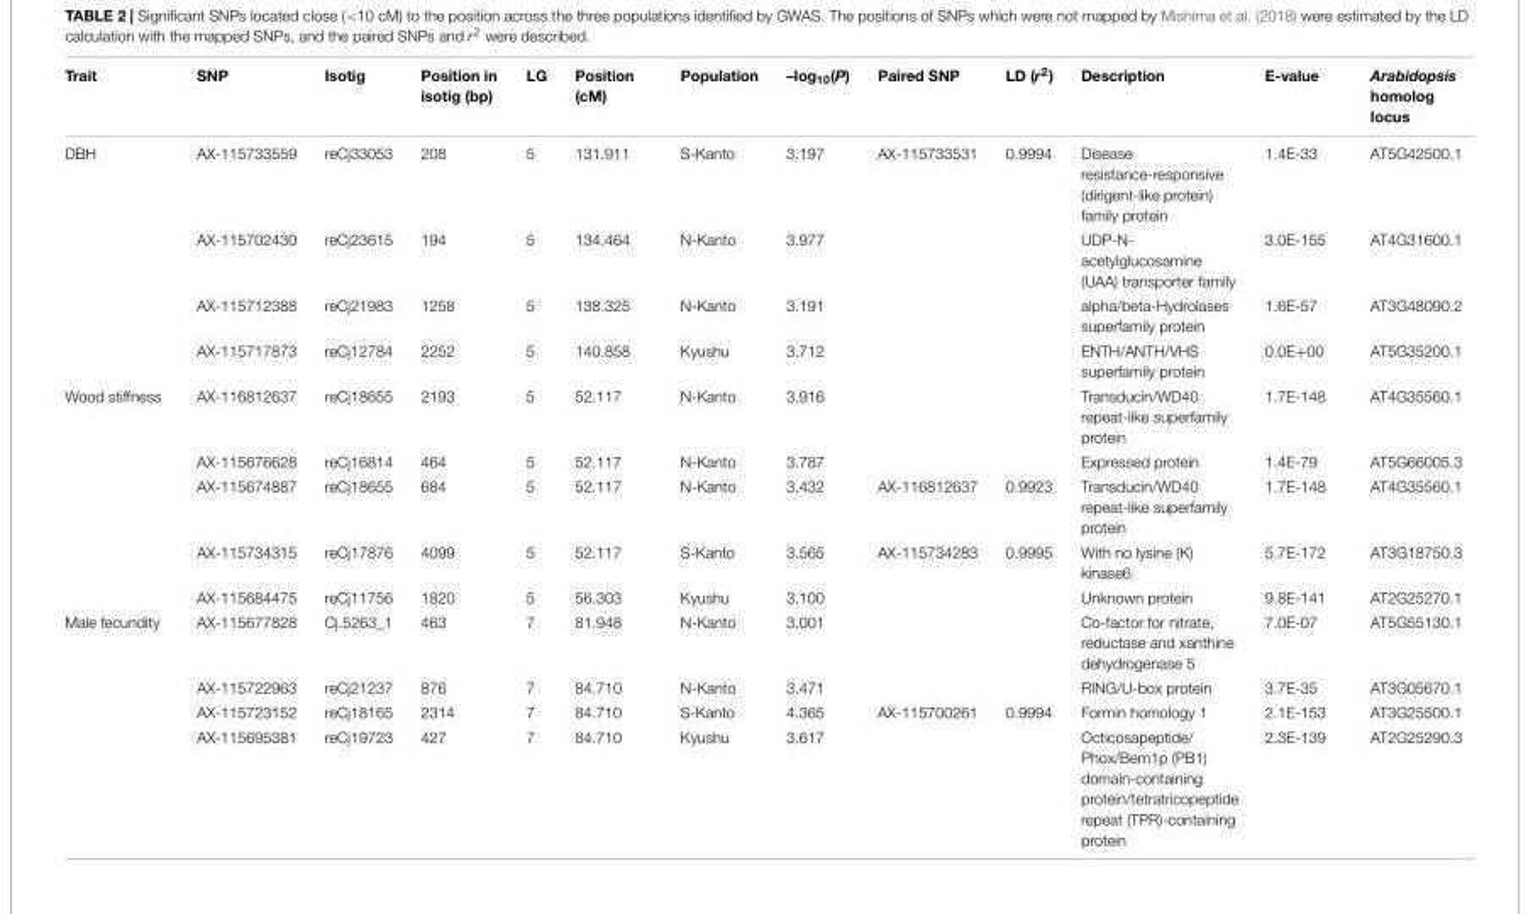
<table><thead><tr><td>Trait</td><td>SNP</td><td>Isotig</td><td>Position in isotig (bp)</td><td>LG</td><td>Position (cM)</td><td>Population</td><td>–log<sub>10</sub>(P)</td><td>Paired SNP</td><td>LD (r<sup>2</sup>)</td><td>Description</td><td>E-value</td><td>Arabidopsis homolog locus</td></tr></thead><tbody><tr><td rowspan="4">DBH</td><td>AX-115733559</td><td>reCj33053</td><td>208</td><td>5</td><td>131.911</td><td>S-Kanto</td><td>3.197</td><td>AX-115733531</td><td>0.9994</td><td>Disease resistance-responsive (dirigent-like protein) family protein</td><td>1.4E-33</td><td>AT5G42500.1</td></tr><tr><td>AX-115702430</td><td>reCj23615</td><td>194</td><td>5</td><td>134.464</td><td>N-Kanto</td><td>3.977</td><td></td><td></td><td>UDP-N- acetylglucosamine (UAA) transporter family</td><td>3.0E-155</td><td>AT4G31600.1</td></tr><tr><td>AX-115712388</td><td>reCj21983</td><td>1258</td><td>5</td><td>138.325</td><td>N-Kanto</td><td>3.191</td><td></td><td></td><td>alpha/beta-Hydrolases superfamily protein</td><td>1.6E-57</td><td>AT3G48090.2</td></tr><tr><td>AX-115717873</td><td>reCj12784</td><td>2252</td><td>5</td><td>140.858</td><td>Kyushu</td><td>3.712</td><td></td><td></td><td>ENTH/ANTH/VHS superfamily protein</td><td>0.0E+00</td><td>AT5G35200.1</td></tr><tr><td rowspan="5">Wood stiffness</td><td>AX-116812637</td><td>reCj18655</td><td>2193</td><td>5</td><td>52.117</td><td>N-Kanto</td><td>3.916</td><td></td><td></td><td>Transducin/WD40 repeat-like superfamily protein</td><td>1.7E-148</td><td>AT4G35560.1</td></tr><tr><td>AX-115676628</td><td>reCj16814</td><td>464</td><td>5</td><td>52.117</td><td>N-Kanto</td><td>3.787</td><td></td><td></td><td>Expressed protein</td><td>1.4E-79</td><td>AT5G66005.3</td></tr><tr><td>AX-115674887</td><td>reCj18655</td><td>684</td><td>5</td><td>52.117</td><td>N-Kanto</td><td>3.432</td><td>AX-116812637</td><td>0.9923</td><td>Transducin/WD40 repeat-like superfamily protein</td><td>1.7E-148</td><td>AT4G35560.1</td></tr><tr><td>AX-115734315</td><td>reCj17876</td><td>4099</td><td>5</td><td>52.117</td><td>S-Kanto</td><td>3.565</td><td>AX-115734283</td><td>0.9995</td><td>With no lysine (K) kinase6</td><td>5.7E-172</td><td>AT3G18750.3</td></tr><tr><td>AX-115684475</td><td>reCj11756</td><td>1820</td><td>5</td><td>56.303</td><td>Kyushu</td><td>3.100</td><td></td><td></td><td>Unknown protein</td><td>9.8E-141</td><td>AT2G25270.1</td></tr><tr><td rowspan="4">Male fecundity</td><td>AX-115677828</td><td>Cj.5263_1</td><td>463</td><td>7</td><td>81.948</td><td>N-Kanto</td><td>3.001</td><td></td><td></td><td>Co-factor for nitrate, reductase and xanthine dehydrogenase 5</td><td>7.0E-07</td><td>AT5G55130.1</td></tr><tr><td>AX-115722963</td><td>reCj21237</td><td>876</td><td>7</td><td>84.710</td><td>N-Kanto</td><td>3.471</td><td></td><td></td><td>RING/U-box protein</td><td>3.7E-35</td><td>AT3G05670.1</td></tr><tr><td>AX-115723152</td><td>reCj18165</td><td>2314</td><td>7</td><td>84.710</td><td>S-Kanto</td><td>4.365</td><td>AX-115700261</td><td>0.9994</td><td>Formin homology 1</td><td>2.1E-153</td><td>AT3G25500.1</td></tr><tr><td>AX-115695381</td><td>reCj19723</td><td>427</td><td>7</td><td>84.710</td><td>Kyushu</td><td>3.617</td><td></td><td></td><td>Octicosapeptide/ Phox/Bem1p (PB1) domain-containing protein/tetratricopeptide repeat (TPR)-containing protein</td><td>2.3E-139</td><td>AT2G25290.3</td></tr></tbody></table>